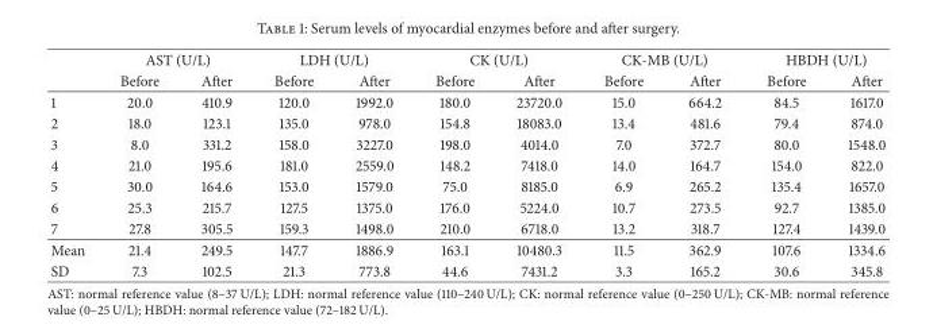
<table><thead><tr><td rowspan="2"></td><td colspan="2">AST (U/L)</td><td colspan="2">LDH (U/L)</td><td colspan="2">CK (U/L)</td><td colspan="2">CK-MB (U/L)</td><td colspan="2">HBDH (U/L)</td></tr><tr><td>Before</td><td>After</td><td>Before</td><td>After</td><td>Before</td><td>After</td><td>Before</td><td>After</td><td>Before</td><td>After</td></tr></thead><tbody><tr><td>1</td><td>20.0</td><td>410.9</td><td>120.0</td><td>1992.0</td><td>180.0</td><td>23720.0</td><td>15.0</td><td>664.2</td><td>84.5</td><td>1617.0</td></tr><tr><td>2</td><td>18.0</td><td>123.1</td><td>135.0</td><td>978.0</td><td>154.8</td><td>18083.0</td><td>13.4</td><td>481.6</td><td>79.4</td><td>874.0</td></tr><tr><td>3</td><td>8.0</td><td>331.2</td><td>158.0</td><td>3227.0</td><td>198.0</td><td>4014.0</td><td>7.0</td><td>372.7</td><td>80.0</td><td>1548.0</td></tr><tr><td>4</td><td>21.0</td><td>195.6</td><td>181.0</td><td>2559.0</td><td>148.2</td><td>7418.0</td><td>14.0</td><td>164.7</td><td>154.0</td><td>822.0</td></tr><tr><td>5</td><td>30.0</td><td>164.6</td><td>153.0</td><td>1579.0</td><td>75.0</td><td>8185.0</td><td>6.9</td><td>265.2</td><td>135.4</td><td>1657.0</td></tr><tr><td>6</td><td>25.3</td><td>215.7</td><td>127.5</td><td>1375.0</td><td>176.0</td><td>5224.0</td><td>10.7</td><td>273.5</td><td>92.7</td><td>1385.0</td></tr><tr><td>7</td><td>27.8</td><td>305.5</td><td>159.3</td><td>1498.0</td><td>210.0</td><td>6718.0</td><td>13.2</td><td>318.7</td><td>127.4</td><td>1439.0</td></tr><tr><td>Mean</td><td>21.4</td><td>249.5</td><td>147.7</td><td>1886.9</td><td>163.1</td><td>10480.3</td><td>11.5</td><td>362.9</td><td>107.6</td><td>1334.6</td></tr><tr><td>SD</td><td>7.3</td><td>102.5</td><td>21.3</td><td>773.8</td><td>44.6</td><td>7431.2</td><td>3.3</td><td>165.2</td><td>30.6</td><td>345.8</td></tr></tbody></table>